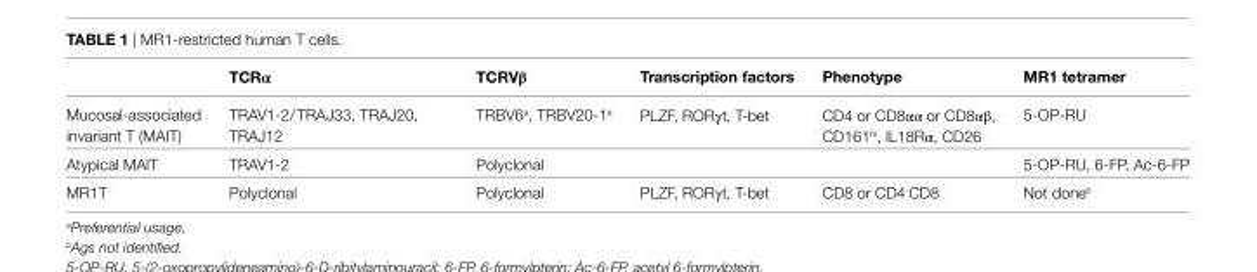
<table><thead><tr><td></td><td>TCRα</td><td>TCRvβ</td><td>Transcription factors</td><td>Phenotype</td><td>MR1 tetramer</td></tr></thead><tbody><tr><td>Mucosal-associated invariant T (MAIT)</td><td>TRAV1-2/ TRAJ33, TRAJ20, TRAJ12</td><td>TRBV6<sup>a</sup>, TRBV20-1<sup>a</sup></td><td>PLZF, RORγt, T-bet</td><td>CD4 or CD8αα or CD8αβ, CD161<sup>hi</sup>, IL18Rα, CD26</td><td>5-OP-RU</td></tr><tr><td>Atypical MAIT</td><td>TRAV1-2</td><td>Polyclonal</td><td></td><td></td><td>5-OP-RU, 6-FP, Ac-6-FP</td></tr><tr><td>MR1T</td><td>Polyclonal</td><td>Polyclonal</td><td>PLZF, RORγt, T-bet</td><td>CD8 or CD4<sup>-</sup>CD8</td><td>Not done<sup>b</sup></td></tr></tbody></table>